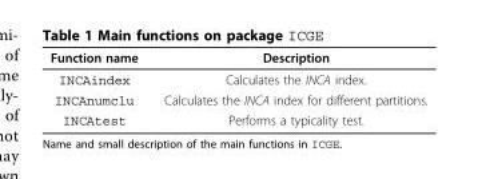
<table><thead><tr><td>Function name</td><td>Description</td></tr></thead><tbody><tr><td>INCAindex</td><td>Calculates the INCA index.</td></tr><tr><td>INCAnumclu</td><td>Calculates the INCA index for different partitions.</td></tr><tr><td>INCAtest</td><td>Performs a typicality test.</td></tr></tbody></table>